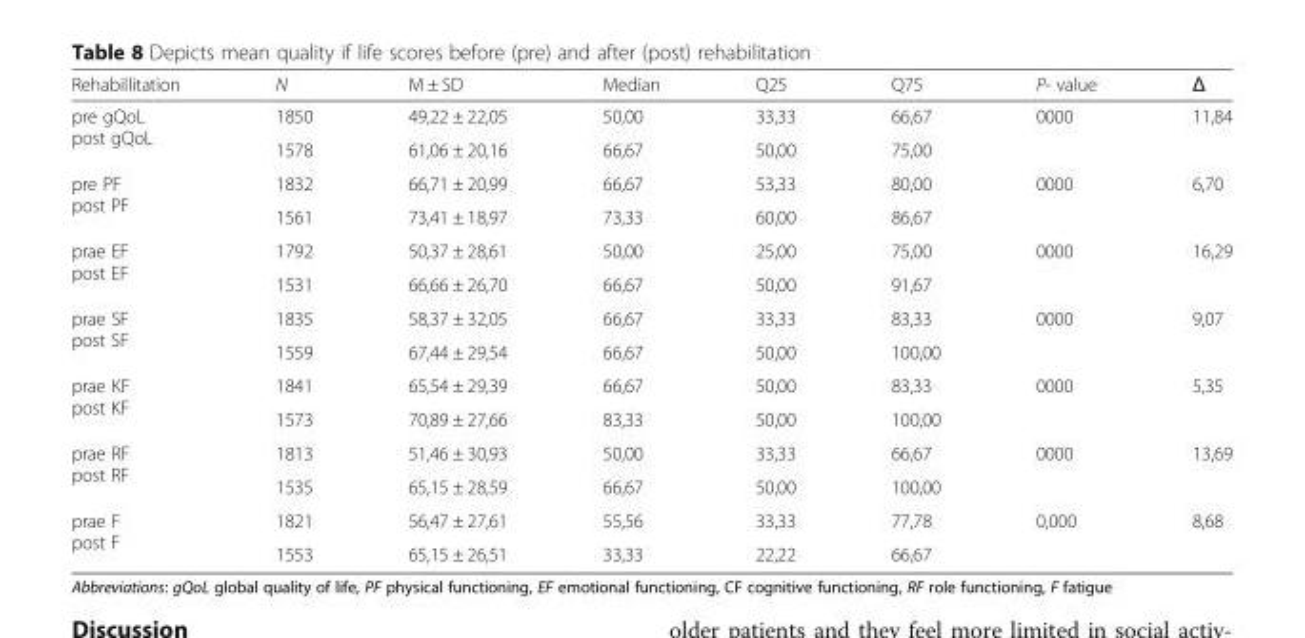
<table><thead><tr><td>Rehabillitation</td><td>N</td><td>M ± SD</td><td>Median</td><td>Q25</td><td>Q75</td><td>P- value</td><td>Δ</td></tr></thead><tbody><tr><td rowspan="2">pre gQoL post gQoL</td><td>1850</td><td>49,22 ± 22,05</td><td>50,00</td><td>33,33</td><td>66,67</td><td rowspan="2">0000</td><td rowspan="2">11,84</td></tr><tr><td>1578</td><td>61,06 ± 20,16</td><td>66,67</td><td>50,00</td><td>75,00</td></tr><tr><td rowspan="2">pre PF post PF</td><td>1832</td><td>66,71 ± 20,99</td><td>66,67</td><td>53,33</td><td>80,00</td><td rowspan="2">0000</td><td rowspan="2">6,70</td></tr><tr><td>1561</td><td>73,41 ± 18,97</td><td>73,33</td><td>60,00</td><td>86,67</td></tr><tr><td rowspan="2">prae EF post EF</td><td>1792</td><td>50,37 ± 28,61</td><td>50,00</td><td>25,00</td><td>75,00</td><td rowspan="2">0000</td><td rowspan="2">16,29</td></tr><tr><td>1531</td><td>66,66 ± 26,70</td><td>66,67</td><td>50,00</td><td>91,67</td></tr><tr><td rowspan="2">prae SF post SF</td><td>1835</td><td>58,37 ± 32,05</td><td>66,67</td><td>33,33</td><td>83,33</td><td rowspan="2">0000</td><td rowspan="2">9,07</td></tr><tr><td>1559</td><td>67,44 ± 29,54</td><td>66,67</td><td>50,00</td><td>100,00</td></tr><tr><td rowspan="2">prae KF post KF</td><td>1841</td><td>65,54 ± 29,39</td><td>66,67</td><td>50,00</td><td>83,33</td><td rowspan="2">0000</td><td rowspan="2">5,35</td></tr><tr><td>1573</td><td>70,89 ± 27,66</td><td>83,33</td><td>50,00</td><td>100,00</td></tr><tr><td rowspan="2">prae RF post RF</td><td>1813</td><td>51,46 ± 30,93</td><td>50,00</td><td>33,33</td><td>66,67</td><td rowspan="2">0000</td><td rowspan="2">13,69</td></tr><tr><td>1535</td><td>65,15 ± 28,59</td><td>66,67</td><td>50,00</td><td>100,00</td></tr><tr><td rowspan="2">prae F post F</td><td>1821</td><td>56,47 ± 27,61</td><td>55,56</td><td>33,33</td><td>77,78</td><td rowspan="2">0,000</td><td rowspan="2">8,68</td></tr><tr><td>1553</td><td>65,15 ± 26,51</td><td>33,33</td><td>22,22</td><td>66,67</td></tr></tbody></table>